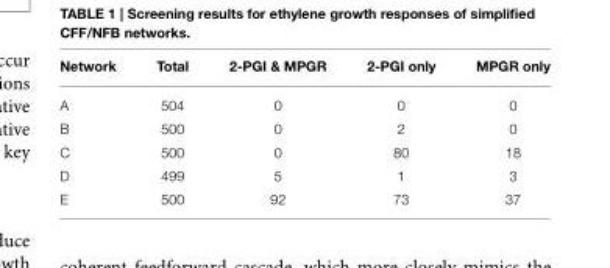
<table><thead><tr><td>Network</td><td>Total</td><td>2-PGI &amp; MPGR</td><td>2-PGI only</td><td>MPGR only</td></tr></thead><tbody><tr><td>A</td><td>504</td><td>0</td><td>0</td><td>0</td></tr><tr><td>B</td><td>500</td><td>0</td><td>2</td><td>0</td></tr><tr><td>C</td><td>500</td><td>0</td><td>80</td><td>18</td></tr><tr><td>D</td><td>499</td><td>5</td><td>1</td><td>3</td></tr><tr><td>E</td><td>500</td><td>92</td><td>73</td><td>37</td></tr></tbody></table>